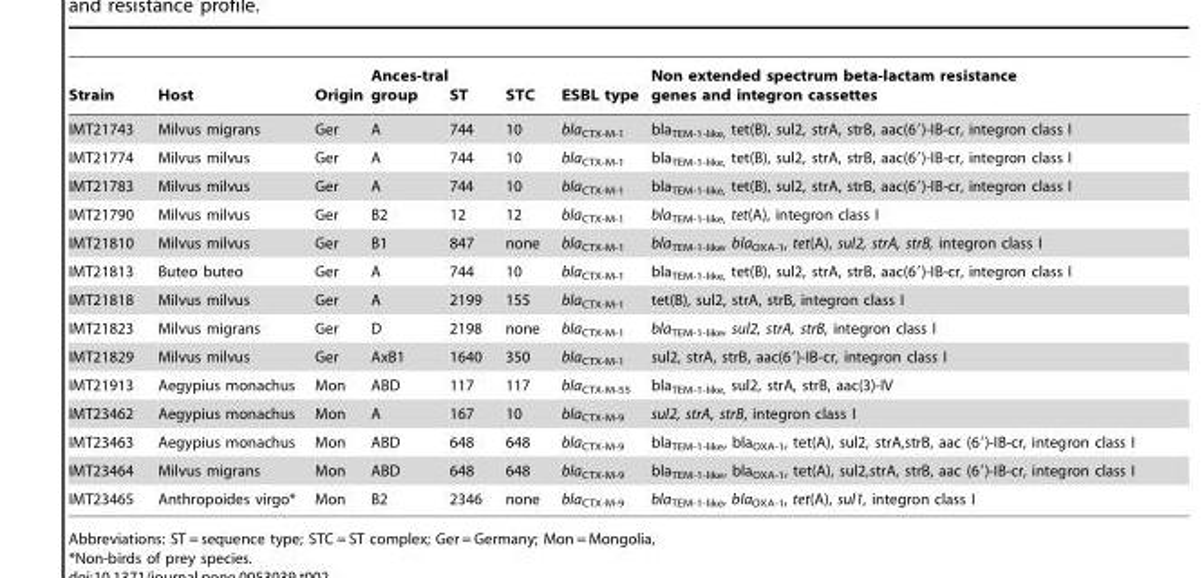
<table><thead><tr><td>Strain</td><td>Host</td><td>Origin</td><td>Ances-tral group</td><td>ST</td><td>STC</td><td>ESBL type</td><td>Non extended spectrum beta-lactam resistance genes and integron cassettes</td></tr></thead><tbody><tr><td>IMT21743</td><td>Milvus migrans</td><td>Ger</td><td>A</td><td>744</td><td>10</td><td>bla<sub>CTX-M-1</sub></td><td>bla<sub>TEM-1-like,</sub> tet(B), sul2, strA, strB, aac(6′)-IB-cr, integron class I</td></tr><tr><td>IMT21774</td><td>Milvus milvus</td><td>Ger</td><td>A</td><td>744</td><td>10</td><td>bla<sub>CTX-M-1</sub></td><td>bla<sub>TEM-1-like,</sub> tet(B), sul2, strA, strB, aac(6′)-IB-cr, integron class I</td></tr><tr><td>IMT21783</td><td>Milvus milvus</td><td>Ger</td><td>A</td><td>744</td><td>10</td><td>bla<sub>CTX-M-1</sub></td><td>bla<sub>TEM-1-like,</sub> tet(B), sul2, strA, strB, aac(6′)-IB-cr, integron class I</td></tr><tr><td>IMT21790</td><td>Milvus milvus</td><td>Ger</td><td>B2</td><td>12</td><td>12</td><td>bla<sub>CTX-M-1</sub></td><td>bla<sub>TEM-1-like,</sub> tet(A), integron class I</td></tr><tr><td>IMT21810</td><td>Milvus milvus</td><td>Ger</td><td>B1</td><td>847</td><td>none</td><td>bla<sub>CTX-M-1</sub></td><td>bla<sub>TEM-1-like</sub>, bla<sub>OXA-1</sub>, tet(A), sul2, strA, strB, integron class I</td></tr><tr><td>IMT21813</td><td>Buteo buteo</td><td>Ger</td><td>A</td><td>744</td><td>10</td><td>bla<sub>CTX-M-1</sub></td><td>bla<sub>TEM-1-like,</sub> tet(B), sul2, strA, strB, aac(6′)-IB-cr, integron class I</td></tr><tr><td>IMT21818</td><td>Milvus milvus</td><td>Ger</td><td>A</td><td>2199</td><td>155</td><td>bla<sub>CTX-M-1</sub></td><td>tet(B), sul2, strA, strB, integron class I</td></tr><tr><td>IMT21823</td><td>Milvus migrans</td><td>Ger</td><td>D</td><td>2198</td><td>none</td><td>bla<sub>CTX-M-1</sub></td><td>bla<sub>TEM-1-like</sub>, sul2, strA, strB, integron class I</td></tr><tr><td>IMT21829</td><td>Milvus milvus</td><td>Ger</td><td>AxB1</td><td>1640</td><td>350</td><td>bla<sub>CTX-M-1</sub></td><td>sul2, strA, strB, aac(6′)-IB-cr, integron class I</td></tr><tr><td>IMT21913</td><td>Aegypius monachus</td><td>Mon</td><td>ABD</td><td>117</td><td>117</td><td>bla<sub>CTX-M-55</sub></td><td>bla<sub>TEM-1-like,</sub> sul2, strA, strB, aac(3)-IV</td></tr><tr><td>IMT23462</td><td>Aegypius monachus</td><td>Mon</td><td>A</td><td>167</td><td>10</td><td>bla<sub>CTX-M-9</sub></td><td>sul2, strA, strB, integron class I</td></tr><tr><td>IMT23463</td><td>Aegypius monachus</td><td>Mon</td><td>ABD</td><td>648</td><td>648</td><td>bla<sub>CTX-M-9</sub></td><td>bla<sub>TEM-1-like</sub>, bla<sub>OXA-1</sub>, tet(A), sul2, strA,strB, aac (6′)-IB-cr, integron class I</td></tr><tr><td>IMT23464</td><td>Milvus migrans</td><td>Mon</td><td>ABD</td><td>648</td><td>648</td><td>bla<sub>CTX-M-9</sub></td><td>bla<sub>TEM-1-like</sub>, bla<sub>OXA-1</sub>, tet(A), sul2,strA, strB, aac (6′)-IB-cr, integron class I</td></tr><tr><td>IMT23465</td><td>Anthropoides virgo*</td><td>Mon</td><td>B2</td><td>2346</td><td>none</td><td>bla<sub>CTX-M-9</sub></td><td>bla<sub>TEM-1-like</sub>, bla<sub>OXA-1</sub>, tet(A), sul1, integron class I</td></tr></tbody></table>